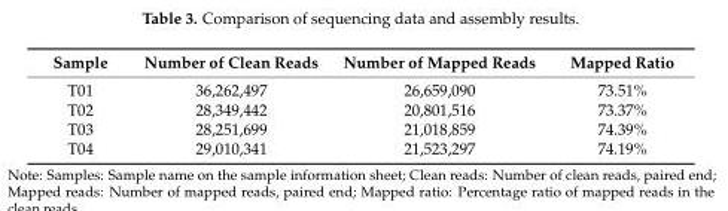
<table><thead><tr><td>Sample</td><td>Number of Clean Reads</td><td>Number of Mapped Reads</td><td>Mapped Ratio</td></tr></thead><tbody><tr><td>T01</td><td>36,262,497</td><td>26,659,090</td><td>73.51%</td></tr><tr><td>T02</td><td>28,349,442</td><td>20,801,516</td><td>73.37%</td></tr><tr><td>T03</td><td>28,251,699</td><td>21,018,859</td><td>74.39%</td></tr><tr><td>T04</td><td>29,010,341</td><td>21,523,297</td><td>74.19%</td></tr></tbody></table>